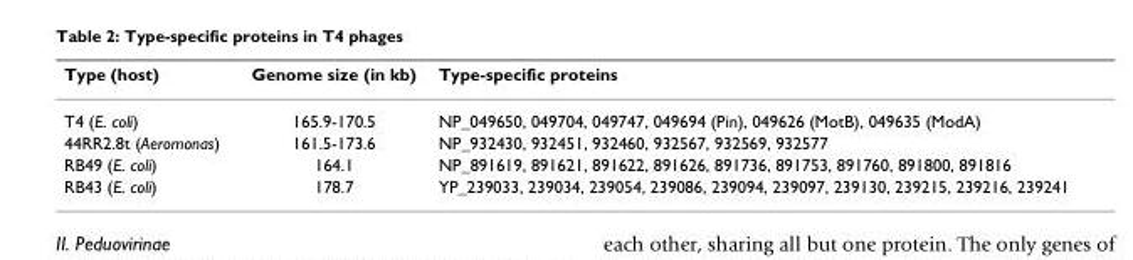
<table><thead><tr><td>Type (host)</td><td>Genome size (in kb)</td><td>Type-specific proteins</td></tr></thead><tbody><tr><td>T4 (E. coli)</td><td>165.9-170.5</td><td>NP_049650, 049704, 049747, 049694 (Pin), 049626 (MotB), 049635 (ModA)</td></tr><tr><td>44RR2.8t (Aeromonas)</td><td>161.5-173.6</td><td>NP_932430, 932451, 932460, 932567, 932569, 932577</td></tr><tr><td>RB49 (E. coli)</td><td>164.1</td><td>NP_891619, 891621, 891622, 891626, 891736, 891753, 891760, 891800, 891816</td></tr><tr><td>RB43 (E. coli)</td><td>178.7</td><td>YP_239033, 239034, 239054, 239086, 239094, 239097, 239130, 239215, 239216, 239241</td></tr></tbody></table>